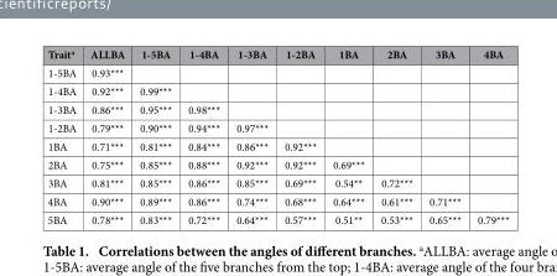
<table><thead><tr><td>Trait<sup>a</sup></td><td>ALLBA</td><td>1-5BA</td><td>1-4BA</td><td>1-3BA</td><td>1-2BA</td><td>1BA</td><td>2BA</td><td>3BA</td><td>4BA</td></tr></thead><tbody><tr><td>1-5BA</td><td>0.93***</td><td></td><td></td><td></td><td></td><td></td><td></td><td></td><td></td></tr><tr><td>1-4BA</td><td>0.92***</td><td>0.99***</td><td></td><td></td><td></td><td></td><td></td><td></td><td></td></tr><tr><td>1-3BA</td><td>0.86***</td><td>0.95***</td><td>0.98***</td><td></td><td></td><td></td><td></td><td></td><td></td></tr><tr><td>1-2BA</td><td>0.79***</td><td>0.90***</td><td>0.94***</td><td>0.97***</td><td></td><td></td><td></td><td></td><td></td></tr><tr><td>1BA</td><td>0.71***</td><td>0.81***</td><td>0.84***</td><td>0.86***</td><td>0.92***</td><td></td><td></td><td></td><td></td></tr><tr><td>2BA</td><td>0.75***</td><td>0.85***</td><td>0.88***</td><td>0.92***</td><td>0.92***</td><td>0.69***</td><td></td><td></td><td></td></tr><tr><td>3BA</td><td>0.81***</td><td>0.85***</td><td>0.86***</td><td>0.85***</td><td>0.69***</td><td>0.54**</td><td>0.72***</td><td></td><td></td></tr><tr><td>4BA</td><td>0.90***</td><td>0.89***</td><td>0.86***</td><td>0.74***</td><td>0.68***</td><td>0.64***</td><td>0.61***</td><td>0.71***</td><td></td></tr><tr><td>5BA</td><td>0.78***</td><td>0.83***</td><td>0.72***</td><td>0.64***</td><td>0.57***</td><td>0.51**</td><td>0.53***</td><td>0.65***</td><td>0.79***</td></tr></tbody></table>